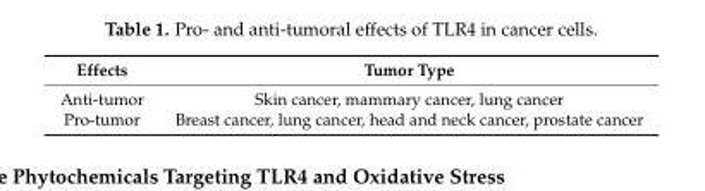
<table><thead><tr><td>Effects</td><td>Tumor Type</td></tr></thead><tbody><tr><td>Anti-tumor</td><td>Skin cancer, mammary cancer, lung cancer</td></tr><tr><td>Pro-tumor</td><td>Breast cancer, lung cancer, head and neck cancer, prostate cancer</td></tr></tbody></table>